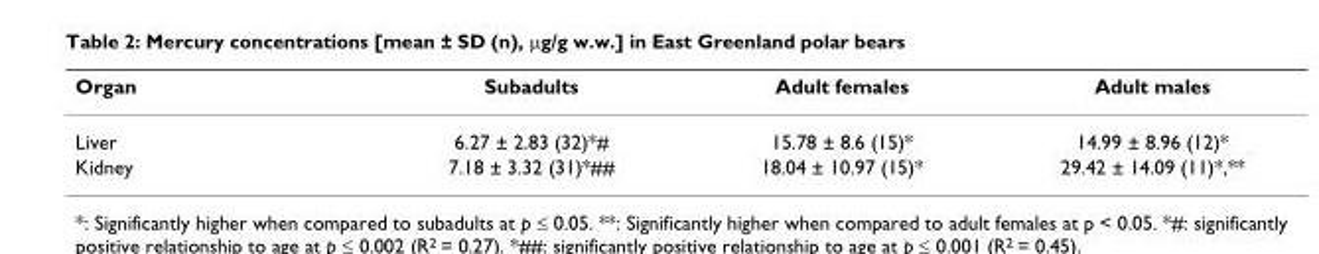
<table><thead><tr><td>Organ</td><td>Subadults</td><td>Adult females</td><td>Adult males</td></tr></thead><tbody><tr><td>Liver</td><td>6.27 ± 2.83 (32)*#</td><td>15.78 ± 8.6 (15)*</td><td>14.99 ± 8.96 (12)*</td></tr><tr><td>Kidney</td><td>7.18 ± 3.32 (31)*##</td><td>18.04 ± 10.97 (15)*</td><td>29.42 ± 14.09 (11)*,**</td></tr></tbody></table>